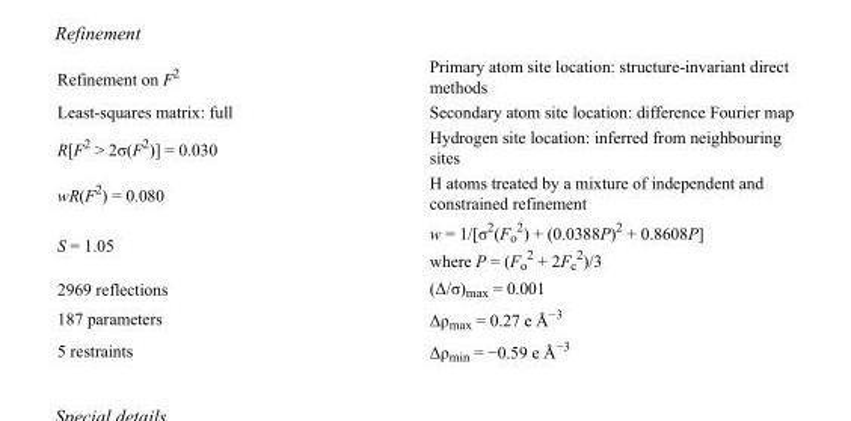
<table><tbody><tr><td>Refinement on F<sup>2</sup></td><td>Primary atom site location: structure-invariant direct methods</td></tr><tr><td>Least-squares matrix: full</td><td>Secondary atom site location: difference Fourier map</td></tr><tr><td>R[F<sup>2</sup> &gt; 2σ(F<sup>2</sup>)] = 0.030</td><td>Hydrogen site location: inferred from neighbouring sites</td></tr><tr><td>wR(F<sup>2</sup>) = 0.080</td><td>H atoms treated by a mixture of independent and constrained refinement</td></tr><tr><td>S = 1.05</td><td>w = 1/[σ<sup>2</sup>(F<sub>o</sub> <sup>2</sup>) + (0.0388P)<sup>2</sup> + 0.8608P] where P = (F<sub>o</sub> <sup>2</sup> + 2F<sub>c</sub> <sup>2</sup>)/3</td></tr><tr><td>2969 reflections</td><td>(Δ/σ)<sub>max</sub> = 0.001</td></tr><tr><td>187 parameters</td><td>Δρ<sub>max</sub> = 0.27 e Å<sup>−3</sup></td></tr><tr><td>5 restraints</td><td>Δρ<sub>min</sub> = −0.59 e Å<sup>−3</sup></td></tr></tbody></table>